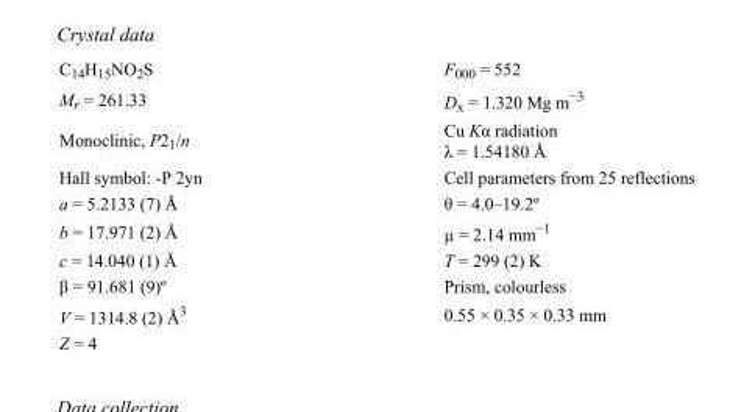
<table><tbody><tr><td>C<sub>14</sub>H<sub>15</sub>NO<sub>2</sub>S</td><td>F<sub>000</sub> = 552</td></tr><tr><td>M<sub>r</sub> = 261.33</td><td>D<sub>x</sub> = 1.320 Mg m<sup>−3</sup></td></tr><tr><td>Monoclinic, P2<sub>1</sub>/n</td><td>Cu Kα radiation λ = 1.54180 Å</td></tr><tr><td>Hall symbol: -P 2yn</td><td>Cell parameters from 25 reflections</td></tr><tr><td>a = 5.2133 (7) Å</td><td>θ = 4.0–19.2º</td></tr><tr><td>b = 17.971 (2) Å</td><td>µ = 2.14 mm<sup>−1</sup></td></tr><tr><td>c = 14.040 (1) Å</td><td>T = 299 (2) K</td></tr><tr><td>β = 91.681 (9)º</td><td>Prism, colourless</td></tr><tr><td>V = 1314.8 (2) Å<sup>3</sup></td><td>0.55 × 0.35 × 0.33 mm</td></tr><tr><td>Z = 4</td><td></td></tr></tbody></table>